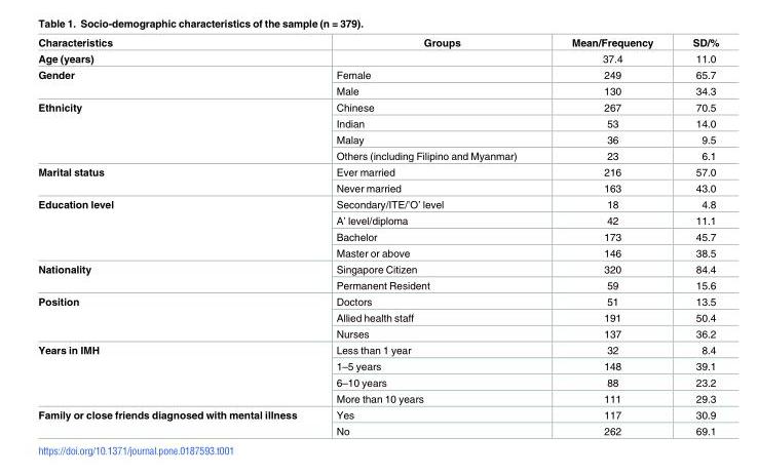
<table><thead><tr><td>Characteristics</td><td>Groups</td><td>Mean/Frequency</td><td>SD/%</td></tr></thead><tbody><tr><td>Age (years)</td><td></td><td>37.4</td><td>11.0</td></tr><tr><td rowspan="2">Gender</td><td>Female</td><td>249</td><td>65.7</td></tr><tr><td>Male</td><td>130</td><td>34.3</td></tr><tr><td rowspan="4">Ethnicity</td><td>Chinese</td><td>267</td><td>70.5</td></tr><tr><td>Indian</td><td>53</td><td>14.0</td></tr><tr><td>Malay</td><td>36</td><td>9.5</td></tr><tr><td>Others (including Filipino and Myanmar)</td><td>23</td><td>6.1</td></tr><tr><td rowspan="2">Marital status</td><td>Ever married</td><td>216</td><td>57.0</td></tr><tr><td>Never married</td><td>163</td><td>43.0</td></tr><tr><td rowspan="4">Education level</td><td>Secondary/ITE/’O’ level</td><td>18</td><td>4.8</td></tr><tr><td>A’ level/diploma</td><td>42</td><td>11.1</td></tr><tr><td>Bachelor</td><td>173</td><td>45.7</td></tr><tr><td>Master or above</td><td>146</td><td>38.5</td></tr><tr><td rowspan="2">Nationality</td><td>Singapore Citizen</td><td>320</td><td>84.4</td></tr><tr><td>Permanent Resident</td><td>59</td><td>15.6</td></tr><tr><td rowspan="3">Position</td><td>Doctors</td><td>51</td><td>13.5</td></tr><tr><td>Allied health staff</td><td>191</td><td>50.4</td></tr><tr><td>Nurses</td><td>137</td><td>36.2</td></tr><tr><td rowspan="4">Years in IMH</td><td>Less than 1 year</td><td>32</td><td>8.4</td></tr><tr><td>1–5 years</td><td>148</td><td>39.1</td></tr><tr><td>6–10 years</td><td>88</td><td>23.2</td></tr><tr><td>More than 10 years</td><td>111</td><td>29.3</td></tr><tr><td rowspan="2">Family or close friends diagnosed with mental illness</td><td>Yes</td><td>117</td><td>30.9</td></tr><tr><td>No</td><td>262</td><td>69.1</td></tr></tbody></table>